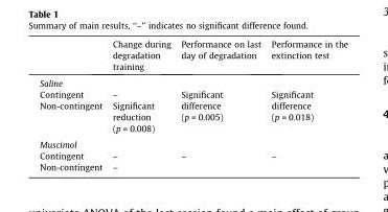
<table><thead><tr><td></td><td>Change during degradation training</td><td>Performance on last day of degradation</td><td>Performance in the extinction test</td></tr></thead><tbody><tr><td colspan="4">Saline</td></tr><tr><td>Contingent</td><td>–</td><td rowspan="2">Significant difference (p = 0.005)</td><td rowspan="2">Significant difference (p = 0.018)</td></tr><tr><td>Non-contingent</td><td>Significant reduction (p = 0.008)</td></tr><tr><td colspan="4">Muscimol</td></tr><tr><td>Contingent</td><td>–</td><td rowspan="2">–</td><td rowspan="2">–</td></tr><tr><td>Non-contingent</td><td>–</td></tr></tbody></table>